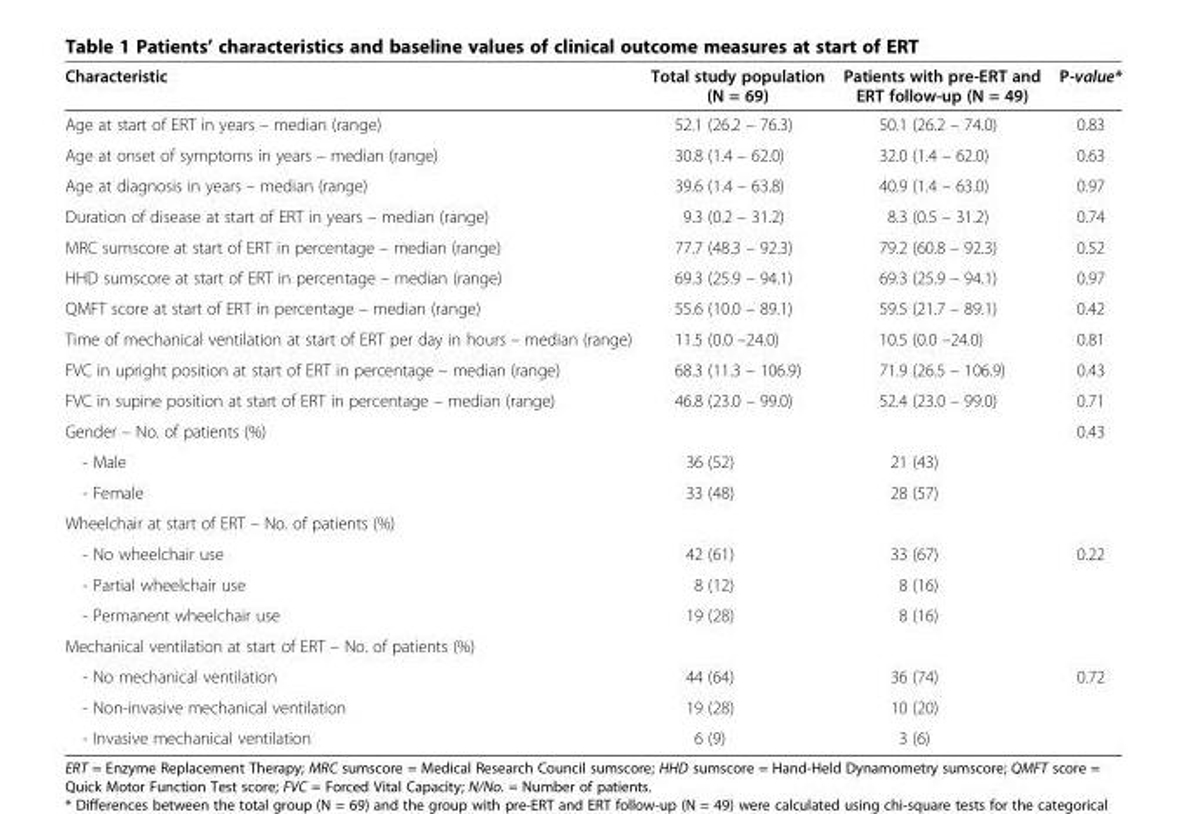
<table><thead><tr><td>Characteristic</td><td>Total study population (N = 69)</td><td>Patients with pre-ERT and ERT follow-up (N = 49)</td><td>P-value*</td></tr></thead><tbody><tr><td>Age at start of ERT in years – median (range)</td><td>52.1 (26.2 – 76.3)</td><td>50.1 (26.2 – 74.0)</td><td>0.83</td></tr><tr><td>Age at onset of symptoms in years – median (range)</td><td>30.8 (1.4 – 62.0)</td><td>32.0 (1.4 – 62.0)</td><td>0.63</td></tr><tr><td>Age at diagnosis in years – median (range)</td><td>39.6 (1.4 – 63.8)</td><td>40.9 (1.4 – 63.0)</td><td>0.97</td></tr><tr><td>Duration of disease at start of ERT in years – median (range)</td><td>9.3 (0.2 – 31.2)</td><td>8.3 (0.5 – 31.2)</td><td>0.74</td></tr><tr><td>MRC sumscore at start of ERT in percentage – median (range)</td><td>77.7 (48.3 – 92.3)</td><td>79.2 (60.8 – 92.3)</td><td>0.52</td></tr><tr><td>HHD sumscore at start of ERT in percentage – median (range)</td><td>69.3 (25.9 – 94.1)</td><td>69.3 (25.9 – 94.1)</td><td>0.97</td></tr><tr><td>QMFT score at start of ERT in percentage – median (range)</td><td>55.6 (10.0 – 89.1)</td><td>59.5 (21.7 – 89.1)</td><td>0.42</td></tr><tr><td>Time of mechanical ventilation at start of ERT per day in hours – median (range)</td><td>11.5 (0.0 –24.0)</td><td>10.5 (0.0 –24.0)</td><td>0.81</td></tr><tr><td>FVC in upright position at start of ERT in percentage – median (range)</td><td>68.3 (11.3 – 106.9)</td><td>71.9 (26.5 – 106.9)</td><td>0.43</td></tr><tr><td>FVC in supine position at start of ERT in percentage – median (range)</td><td>46.8 (23.0 – 99.0)</td><td>52.4 (23.0 – 99.0)</td><td>0.71</td></tr><tr><td>Gender – No. of patients (%)</td><td></td><td></td><td>0.43</td></tr><tr><td>- Male</td><td>36 (52)</td><td>21 (43)</td><td></td></tr><tr><td>- Female</td><td>33 (48)</td><td>28 (57)</td><td></td></tr><tr><td colspan="4">Wheelchair at start of ERT – No. of patients (%)</td></tr><tr><td>- No wheelchair use</td><td>42 (61)</td><td>33 (67)</td><td>0.22</td></tr><tr><td>- Partial wheelchair use</td><td>8 (12)</td><td>8 (16)</td><td></td></tr><tr><td>- Permanent wheelchair use</td><td>19 (28)</td><td>8 (16)</td><td></td></tr><tr><td colspan="4">Mechanical ventilation at start of ERT – No. of patients (%)</td></tr><tr><td>- No mechanical ventilation</td><td>44 (64)</td><td>36 (74)</td><td>0.72</td></tr><tr><td>- Non-invasive mechanical ventilation</td><td>19 (28)</td><td>10 (20)</td><td></td></tr><tr><td>- Invasive mechanical ventilation</td><td>6 (9)</td><td>3 (6)</td><td></td></tr></tbody></table>